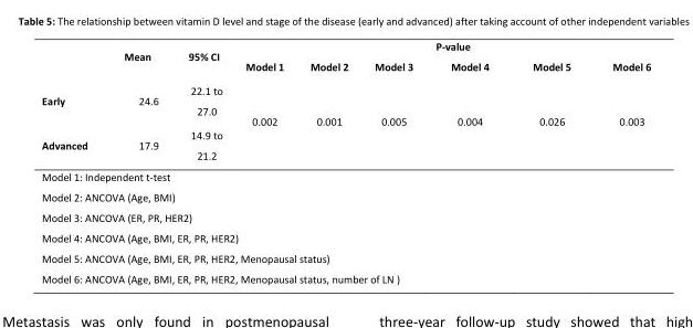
<table><thead><tr><td rowspan="4">Early Advanced</td><td rowspan="4">Mean 24.6 17.9</td><td rowspan="4">95% CI 22.1 to 27.0 14.9 to 21.2</td><td colspan="6">P-value</td></tr><tr><td rowspan="3">Model 1 0.002</td><td rowspan="3">Model 2 0.001</td><td rowspan="3">Model 3 0.005</td><td rowspan="3">Model 4 0.004</td><td rowspan="3">Model 5 0.026</td><td rowspan="3">Model 6 0.003</td></tr><tr></tr><tr></tr></thead><tbody><tr><td colspan="9">Model 1: Independent t-test</td></tr><tr><td colspan="9">Model 2: ANCOVA (Age, BMI)</td></tr><tr><td colspan="9">Model 3: ANCOVA (ER, PR, HER2)</td></tr><tr><td colspan="9">Model 4: ANCOVA (Age, BMI, ER, PR, HER2)</td></tr><tr><td colspan="9">Model 5: ANCOVA (Age, BMI, ER, PR, HER2, Menopausal status)</td></tr><tr><td colspan="6">Model 6: ANCOVA (Age, BMI, ER, PR, HER2, Menopausal status, number of LN )</td><td></td><td></td><td></td></tr></tbody></table>